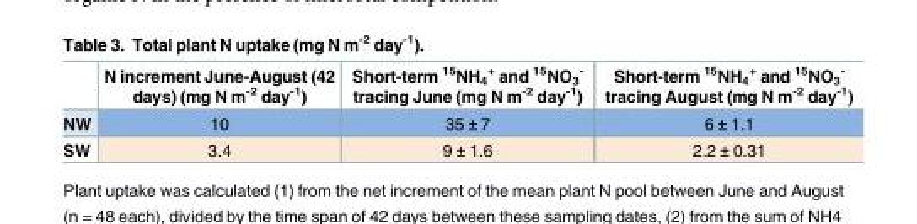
<table><thead><tr><td></td><td>N increment June-August (42 days) (mg N m<sup>-2</sup> day<sup>-1</sup>)</td><td>Short-term <sup>15</sup>NH<sub>4</sub> <sup>+</sup> and <sup>15</sup>NO<sub>3</sub> <sup>-</sup> tracing June (mg N m<sup>-2</sup> day<sup>-1</sup>)</td><td>Short-term <sup>15</sup>NH<sub>4</sub> <sup>+</sup> and <sup>15</sup>NO<sub>3</sub> <sup>-</sup> tracing August (mg N m<sup>-2</sup> day<sup>-1</sup>)</td></tr></thead><tbody><tr><td>NW</td><td>10</td><td>35 ± 7</td><td>6 ± 1.1</td></tr><tr><td>SW</td><td>3.4</td><td>9 ± 1.6</td><td>2.2 ± 0.31</td></tr></tbody></table>